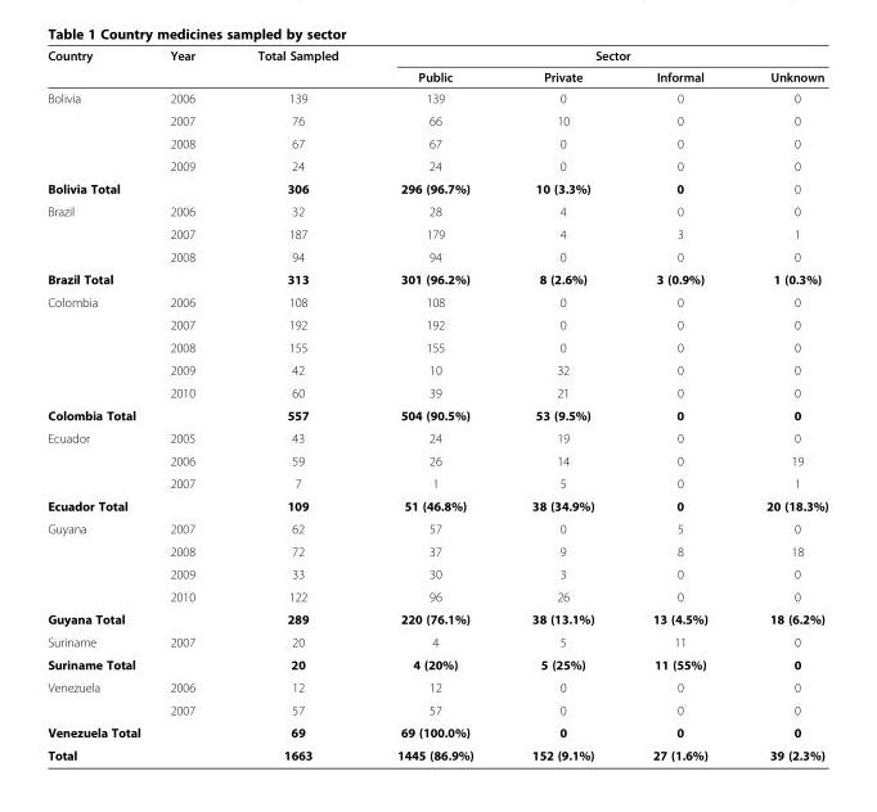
<table><thead><tr><td rowspan="2">Country</td><td rowspan="2">Year</td><td rowspan="2">Total Sampled</td><td colspan="4">Sector</td></tr><tr><td>Public</td><td>Private</td><td>Informal</td><td>Unknown</td></tr></thead><tbody><tr><td rowspan="4">Bolivia</td><td>2006</td><td>139</td><td>139</td><td>0</td><td>0</td><td>0</td></tr><tr><td>2007</td><td>76</td><td>66</td><td>10</td><td>0</td><td>0</td></tr><tr><td>2008</td><td>67</td><td>67</td><td>0</td><td>0</td><td>0</td></tr><tr><td>2009</td><td>24</td><td>24</td><td>0</td><td>0</td><td>0</td></tr><tr><td colspan="2">Bolivia Total</td><td>306</td><td>296 (96.7%)</td><td>10 (3.3%)</td><td>0</td><td>0</td></tr><tr><td rowspan="3">Brazil</td><td>2006</td><td>32</td><td>28</td><td>4</td><td>0</td><td>0</td></tr><tr><td>2007</td><td>187</td><td>179</td><td>4</td><td>3</td><td>1</td></tr><tr><td>2008</td><td>94</td><td>94</td><td>0</td><td>0</td><td>0</td></tr><tr><td colspan="2">Brazil Total</td><td>313</td><td>301 (96.2%)</td><td>8 (2.6%)</td><td>3 (0.9%)</td><td>1 (0.3%)</td></tr><tr><td rowspan="5">Colombia</td><td>2006</td><td>108</td><td>108</td><td>0</td><td>0</td><td>0</td></tr><tr><td>2007</td><td>192</td><td>192</td><td>0</td><td>0</td><td>0</td></tr><tr><td>2008</td><td>155</td><td>155</td><td>0</td><td>0</td><td>0</td></tr><tr><td>2009</td><td>42</td><td>10</td><td>32</td><td>0</td><td>0</td></tr><tr><td>2010</td><td>60</td><td>39</td><td>21</td><td>0</td><td>0</td></tr><tr><td colspan="2">Colombia Total</td><td>557</td><td>504 (90.5%)</td><td>53 (9.5%)</td><td>0</td><td>0</td></tr><tr><td rowspan="3">Ecuador</td><td>2005</td><td>43</td><td>24</td><td>19</td><td>0</td><td>0</td></tr><tr><td>2006</td><td>59</td><td>26</td><td>14</td><td>0</td><td>19</td></tr><tr><td>2007</td><td>7</td><td>1</td><td>5</td><td>0</td><td>1</td></tr><tr><td colspan="2">Ecuador Total</td><td>109</td><td>51 (46.8%)</td><td>38 (34.9%)</td><td>0</td><td>20 (18.3%)</td></tr><tr><td rowspan="4">Guyana</td><td>2007</td><td>62</td><td>57</td><td>0</td><td>5</td><td>0</td></tr><tr><td>2008</td><td>72</td><td>37</td><td>9</td><td>8</td><td>18</td></tr><tr><td>2009</td><td>33</td><td>30</td><td>3</td><td>0</td><td>0</td></tr><tr><td>2010</td><td>122</td><td>96</td><td>26</td><td>0</td><td>0</td></tr><tr><td colspan="2">Guyana Total</td><td>289</td><td>220 (76.1%)</td><td>38 (13.1%)</td><td>13 (4.5%)</td><td>18 (6.2%)</td></tr><tr><td>Suriname</td><td>2007</td><td>20</td><td>4</td><td>5</td><td>11</td><td>0</td></tr><tr><td colspan="2">Suriname Total</td><td>20</td><td>4 (20%)</td><td>5 (25%)</td><td>11 (55%)</td><td>0</td></tr><tr><td rowspan="2">Venezuela</td><td>2006</td><td>12</td><td>12</td><td>0</td><td>0</td><td>0</td></tr><tr><td>2007</td><td>57</td><td>57</td><td>0</td><td>0</td><td>0</td></tr><tr><td colspan="2">Venezuela Total</td><td>69</td><td>69 (100.0%)</td><td>0</td><td>0</td><td>0</td></tr><tr><td>Total</td><td></td><td>1663</td><td>1445 (86.9%)</td><td>152 (9.1%)</td><td>27 (1.6%)</td><td>39 (2.3%)</td></tr></tbody></table>